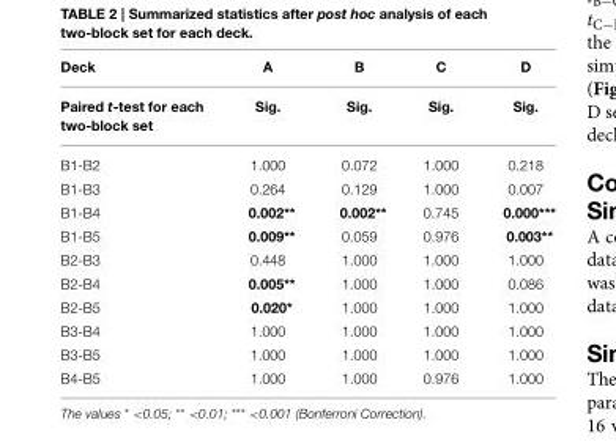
<table><thead><tr><td rowspan="2">Deck Paired t-test for each two-block set</td><td rowspan="2">A Sig.</td><td rowspan="2">B Sig.</td><td rowspan="2">C Sig.</td><td rowspan="2">D Sig.</td></tr><tr></tr></thead><tbody><tr><td>B1-B2</td><td>1.000</td><td>0.072</td><td>1.000</td><td>0.218</td></tr><tr><td>B1-B3</td><td>0.264</td><td>0.129</td><td>1.000</td><td>0.007</td></tr><tr><td>B1-B4</td><td>0.002**</td><td>0.002**</td><td>0.745</td><td>0.000***</td></tr><tr><td>B1-B5</td><td>0.009**</td><td>0.059</td><td>0.976</td><td>0.003**</td></tr><tr><td>B2-B3</td><td>0.448</td><td>1.000</td><td>1.000</td><td>1.000</td></tr><tr><td>B2-B4</td><td>0.005**</td><td>1.000</td><td>1.000</td><td>0.086</td></tr><tr><td>B2-B5</td><td>0.020*</td><td>1.000</td><td>1.000</td><td>1.000</td></tr><tr><td>B3-B4</td><td>1.000</td><td>1.000</td><td>1.000</td><td>1.000</td></tr><tr><td>B3-B5</td><td>1.000</td><td>1.000</td><td>1.000</td><td>1.000</td></tr><tr><td>B4-B5</td><td>1.000</td><td>1.000</td><td>0.976</td><td>1.000</td></tr></tbody></table>